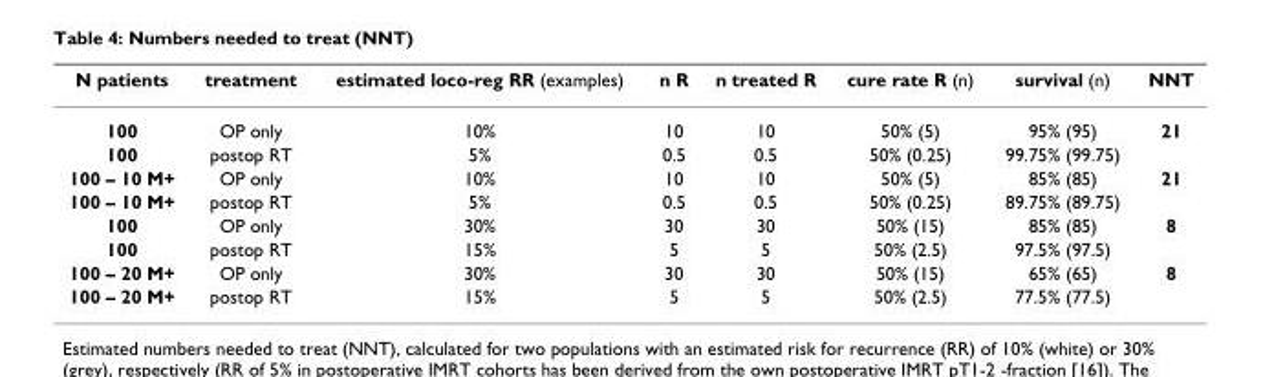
<table><thead><tr><td>N patients</td><td>treatment</td><td>estimated loco-reg RR (examples)</td><td>n R</td><td>n treated R</td><td>cure rate R (n)</td><td>survival (n)</td><td>NNT</td></tr></thead><tbody><tr><td>100</td><td>OP only</td><td>10%</td><td>10</td><td>10</td><td>50% (5)</td><td>95% (95)</td><td>21</td></tr><tr><td>100</td><td>postop RT</td><td>5%</td><td>0.5</td><td>0.5</td><td>50% (0.25)</td><td>99.75% (99.75)</td><td></td></tr><tr><td>100 – 10 M+</td><td>OP only</td><td>10%</td><td>10</td><td>10</td><td>50% (5)</td><td>85% (85)</td><td>21</td></tr><tr><td>100 – 10 M+</td><td>postop RT</td><td>5%</td><td>0.5</td><td>0.5</td><td>50% (0.25)</td><td>89.75% (89.75)</td><td></td></tr><tr><td>100</td><td>OP only</td><td>30%</td><td>30</td><td>30</td><td>50% (15)</td><td>85% (85)</td><td>8</td></tr><tr><td>100</td><td>postop RT</td><td>15%</td><td>5</td><td>5</td><td>50% (2.5)</td><td>97.5% (97.5)</td><td></td></tr><tr><td>100 – 20 M+</td><td>OP only</td><td>30%</td><td>30</td><td>30</td><td>50% (15)</td><td>65% (65)</td><td>8</td></tr><tr><td>100 – 20 M+</td><td>postop RT</td><td>15%</td><td>5</td><td>5</td><td>50% (2.5)</td><td>77.5% (77.5)</td><td></td></tr></tbody></table>